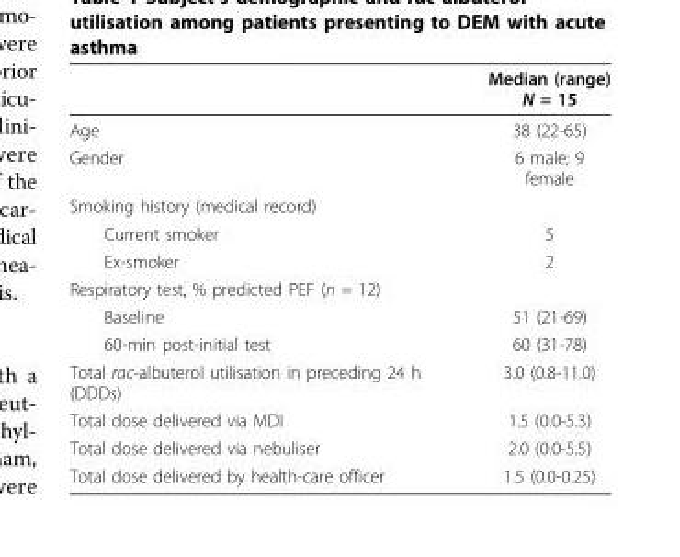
<table><thead><tr><td></td><td>Median (range) N = 15</td></tr></thead><tbody><tr><td>Age</td><td>38 (22-65)</td></tr><tr><td>Gender</td><td>6 male; 9 female</td></tr><tr><td colspan="2">Smoking history (medical record)</td></tr><tr><td>Current smoker</td><td>5</td></tr><tr><td>Ex-smoker</td><td>2</td></tr><tr><td colspan="2">Respiratory test, % predicted PEF (n = 12)</td></tr><tr><td>Baseline</td><td>51 (21-69)</td></tr><tr><td>60-min post-initial test</td><td>60 (31-78)</td></tr><tr><td>Total rac-albuterol utilisation in preceding 24 h (DDDs)</td><td>3.0 (0.8-11.0)</td></tr><tr><td>Total dose delivered via MDI</td><td>1.5 (0.0-5.3)</td></tr><tr><td>Total dose delivered via nebuliser</td><td>2.0 (0.0-5.5)</td></tr><tr><td>Total dose delivered by health-care officer</td><td>1.5 (0.0-0.25)</td></tr></tbody></table>